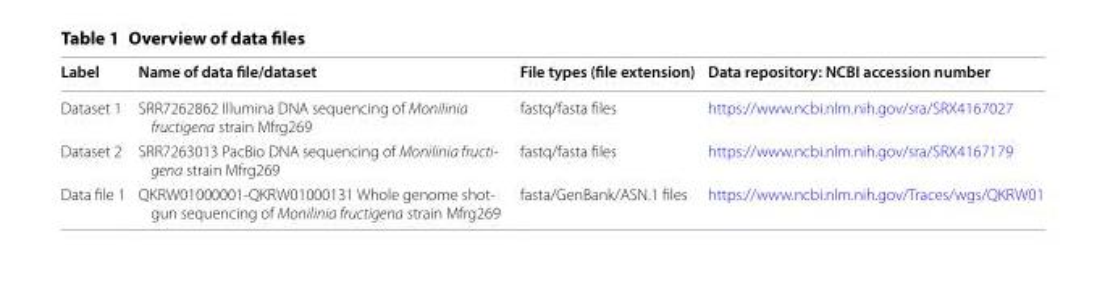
<table><thead><tr><td>Label</td><td>Name of data file/dataset</td><td>File types (file extension)</td><td>Data repository: NCBI accession number</td></tr></thead><tbody><tr><td>Dataset 1</td><td>SRR7262862 Illumina DNA sequencing of Monilinia fructigena strain Mfrg269</td><td>fastq/fasta files</td><td>https ://www.ncbi.nlm.nih.gov/sra/SRX41 67027</td></tr><tr><td>Dataset 2</td><td>SRR7263013 PacBio DNA sequencing of Monilinia fructi- gena strain Mfrg269</td><td>fastq/fasta files</td><td>https ://www.ncbi.nlm.nih.gov/sra/SRX41 67179</td></tr><tr><td>Data file 1</td><td>QKRW01000001-QKRW01000131 Whole genome shot- gun sequencing of Monilinia fructigena strain Mfrg269</td><td>fasta/GenBank/ASN.1 files</td><td>https ://www.ncbi.nlm.nih.gov/Trace s/wgs/QKRW0</td></tr></tbody></table>